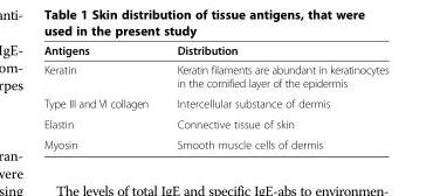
<table><thead><tr><td>Antigens</td><td>Distribution</td></tr></thead><tbody><tr><td>Keratin</td><td>Keratin filaments are abundant in keratinocytes in the cornified layer of the epidermis</td></tr><tr><td>Type III and VI collagen</td><td>Intercellular substance of dermis</td></tr><tr><td>Elastin</td><td>Connective tissue of skin</td></tr><tr><td>Myosin</td><td>Smooth muscle cells of dermis</td></tr></tbody></table>